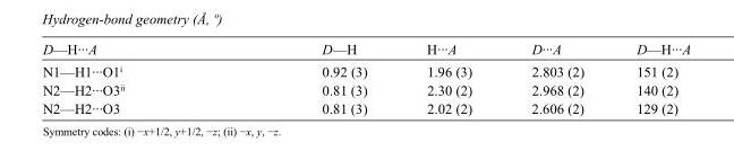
<table><tbody><tr><td>D—H···A</td><td>D—H</td><td>H···A</td><td>D···A</td><td>D—H···A</td></tr><tr><td>N1—H1···O1<sup>i</sup></td><td>0.92 (3)</td><td>1.96 (3)</td><td>2.803 (2)</td><td>151 (2)</td></tr><tr><td>N2—H2···O3<sup>ii</sup></td><td>0.81 (3)</td><td>2.30 (2)</td><td>2.968 (2)</td><td>140 (2)</td></tr><tr><td>N2—H2···O3</td><td>0.81 (3)</td><td>2.02 (2)</td><td>2.606 (2)</td><td>129 (2)</td></tr></tbody></table>